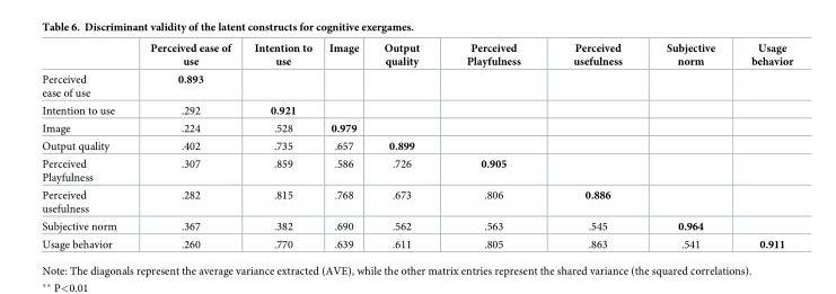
<table><thead><tr><td></td><td>Perceived ease of use</td><td>Intention to use</td><td>Image</td><td>Output quality</td><td>Perceived Playfulness</td><td>Perceived usefulness</td><td>Subjective norm</td><td>Usage behavior</td></tr></thead><tbody><tr><td>Perceived ease of use</td><td>0.893</td><td></td><td></td><td></td><td></td><td></td><td></td><td></td></tr><tr><td>Intention to use</td><td>.292</td><td>0.921</td><td></td><td></td><td></td><td></td><td></td><td></td></tr><tr><td>Image</td><td>.224</td><td>.528</td><td>0.979</td><td></td><td></td><td></td><td></td><td></td></tr><tr><td>Output quality</td><td>.402</td><td>.735</td><td>.657</td><td>0.899</td><td></td><td></td><td></td><td></td></tr><tr><td>Perceived Playfulness</td><td>.307</td><td>.859</td><td>.586</td><td>.726</td><td>0.905</td><td></td><td></td><td></td></tr><tr><td>Perceived usefulness</td><td>.282</td><td>.815</td><td>.768</td><td>.673</td><td>.806</td><td>0.886</td><td></td><td></td></tr><tr><td>Subjective norm</td><td>.367</td><td>.382</td><td>.690</td><td>.562</td><td>.563</td><td>.545</td><td>0.964</td><td></td></tr><tr><td>Usage behavior</td><td>.260</td><td>.770</td><td>.639</td><td>.611</td><td>.805</td><td>.863</td><td>.541</td><td>0.911</td></tr></tbody></table>